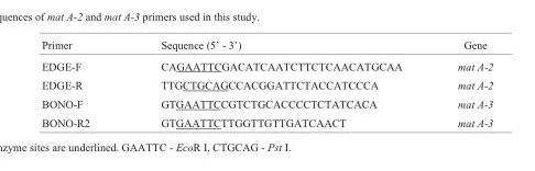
<table><thead><tr><td>Primer</td><td>Sequence (5’ - 3’)</td><td>Gene</td></tr></thead><tbody><tr><td>EDGE-F</td><td>CAGAATTCGACATCAATCTTCTCAACATGCAA</td><td>mat A-2</td></tr><tr><td>EDGE-R</td><td>TTGCTGCAGCCACGGATTCTACCATCCCA</td><td>mat A-2</td></tr><tr><td>BONO-F</td><td>GTGAATTCCGTCTGCACCCCTCTATCACA</td><td>mat A-3</td></tr><tr><td>BONO-R2</td><td>GTGAATTCTTGGTTGTTGATCAACT</td><td>mat A-3</td></tr></tbody></table>